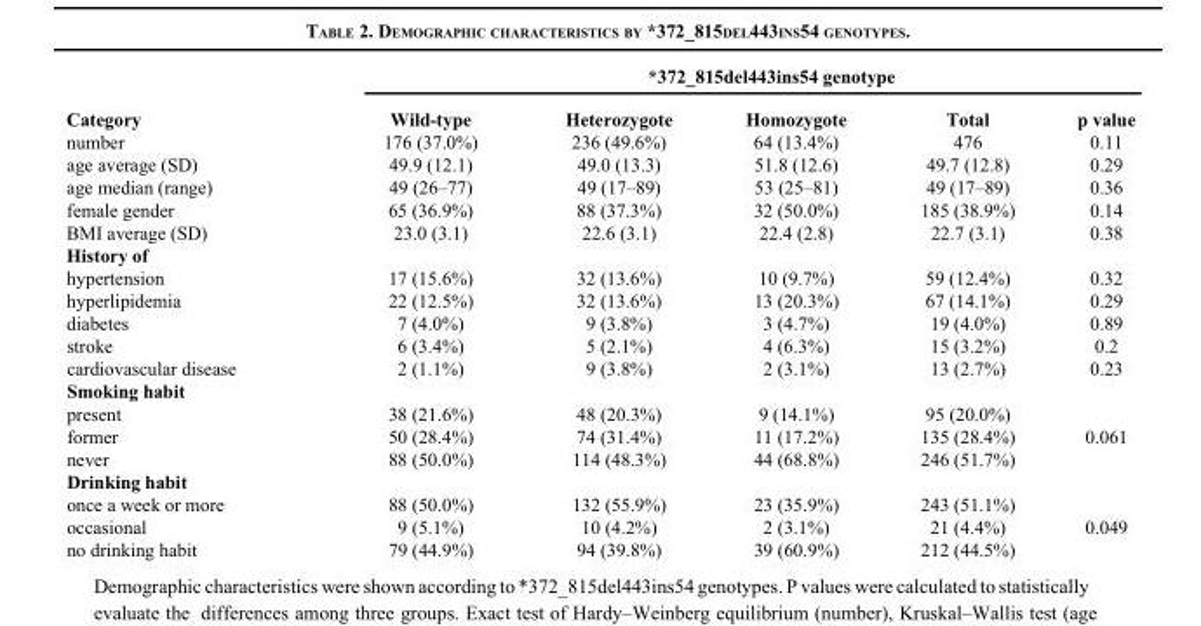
<table><thead><tr><td rowspan="2">Category</td><td colspan="5">*372_815del443ins54 genotype</td></tr><tr><td>Wild-type</td><td>Heterozygote</td><td>Homozygote</td><td>Total</td><td>p value</td></tr></thead><tbody><tr><td>number</td><td>176 (37.0%)</td><td>236 (49.6%)</td><td>64 (13.4%)</td><td>476</td><td>0.11</td></tr><tr><td>age average (SD)</td><td>49.9 (12.1)</td><td>49.0 (13.3)</td><td>51.8 (12.6)</td><td>49.7 (12.8)</td><td>0.29</td></tr><tr><td>age median (range)</td><td>49 (26–77)</td><td>49 (17–89)</td><td>53 (25–81)</td><td>49 (17–89)</td><td>0.36</td></tr><tr><td>female gender</td><td>65 (36.9%)</td><td>88 (37.3%)</td><td>32 (50.0%)</td><td>185 (38.9%)</td><td>0.14</td></tr><tr><td>BMI average (SD)</td><td>23.0 (3.1)</td><td>22.6 (3.1)</td><td>22.4 (2.8)</td><td>22.7 (3.1)</td><td>0.38</td></tr><tr><td colspan="6">History of</td></tr><tr><td>hypertension</td><td>17 (15.6%)</td><td>32 (13.6%)</td><td>10 (9.7%)</td><td>59 (12.4%)</td><td>0.32</td></tr><tr><td>hyperlipidemia</td><td>22 (12.5%)</td><td>32 (13.6%)</td><td>13 (20.3%)</td><td>67 (14.1%)</td><td>0.29</td></tr><tr><td>diabetes</td><td>7 (4.0%)</td><td>9 (3.8%)</td><td>3 (4.7%)</td><td>19 (4.0%)</td><td>0.89</td></tr><tr><td>stroke</td><td>6 (3.4%)</td><td>5 (2.1%)</td><td>4 (6.3%)</td><td>15 (3.2%)</td><td>0.2</td></tr><tr><td>cardiovascular disease</td><td>2 (1.1%)</td><td>9 (3.8%)</td><td>2 (3.1%)</td><td>13 (2.7%)</td><td>0.23</td></tr><tr><td colspan="6">Smoking habit</td></tr><tr><td>present</td><td>38 (21.6%)</td><td>48 (20.3%)</td><td>9 (14.1%)</td><td>95 (20.0%)</td><td></td></tr><tr><td>former</td><td>50 (28.4%)</td><td>74 (31.4%)</td><td>11 (17.2%)</td><td>135 (28.4%)</td><td>0.061</td></tr><tr><td>never</td><td>88 (50.0%)</td><td>114 (48.3%)</td><td>44 (68.8%)</td><td>246 (51.7%)</td><td></td></tr><tr><td colspan="6">Drinking habit</td></tr><tr><td>once a week or more</td><td>88 (50.0%)</td><td>132 (55.9%)</td><td>23 (35.9%)</td><td>243 (51.1%)</td><td></td></tr><tr><td>occasional</td><td>9 (5.1%)</td><td>10 (4.2%)</td><td>2 (3.1%)</td><td>21 (4.4%)</td><td>0.049</td></tr><tr><td>no drinking habit</td><td>79 (44.9%)</td><td>94 (39.8%)</td><td>39 (60.9%)</td><td>212 (44.5%)</td><td></td></tr></tbody></table>